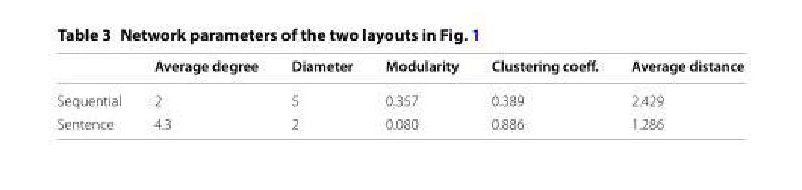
<table><thead><tr><td></td><td>Average degree</td><td>Diameter</td><td>Modularity</td><td>Clustering coeff.</td><td>Average distance</td></tr></thead><tbody><tr><td>Sequential</td><td>2</td><td>5</td><td>0.357</td><td>0.389</td><td>2.429</td></tr><tr><td>Sentence</td><td>4.3</td><td>2</td><td>0.080</td><td>0.886</td><td>1.286</td></tr></tbody></table>